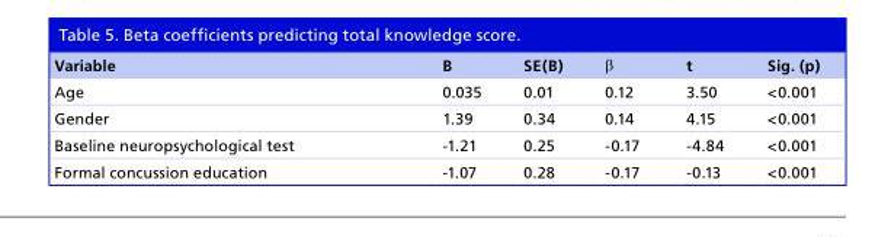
<table><thead><tr><td>Variable</td><td>B</td><td>SE(B)</td><td>β</td><td>t</td><td>Sig. (p)</td></tr></thead><tbody><tr><td>Age</td><td>0.035</td><td>0.01</td><td>0.12</td><td>3.50</td><td>&lt;0.001</td></tr><tr><td>Gender</td><td>1.39</td><td>0.34</td><td>0.14</td><td>4.15</td><td>&lt;0.001</td></tr><tr><td>Baseline neuropsychological test</td><td>-1.21</td><td>0.25</td><td>-0.17</td><td>-4.84</td><td>&lt;0.001</td></tr><tr><td>Formal concussion education</td><td>-1.07</td><td>0.28</td><td>-0.17</td><td>-0.13</td><td>&lt;0.001</td></tr></tbody></table>